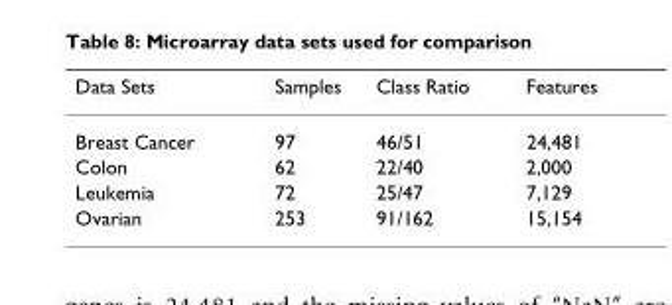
<table><tbody><tr><td>Data Sets</td><td>Samples</td><td>Class Ratio</td><td>Features</td></tr><tr><td>Breast Cancer</td><td>97</td><td>46/51</td><td>24,481</td></tr><tr><td>Colon</td><td>62</td><td>22/40</td><td>2,000</td></tr><tr><td>Leukemia</td><td>72</td><td>25/47</td><td>7,129</td></tr><tr><td>Ovarian</td><td>253</td><td>91/162</td><td>15,154</td></tr></tbody></table>